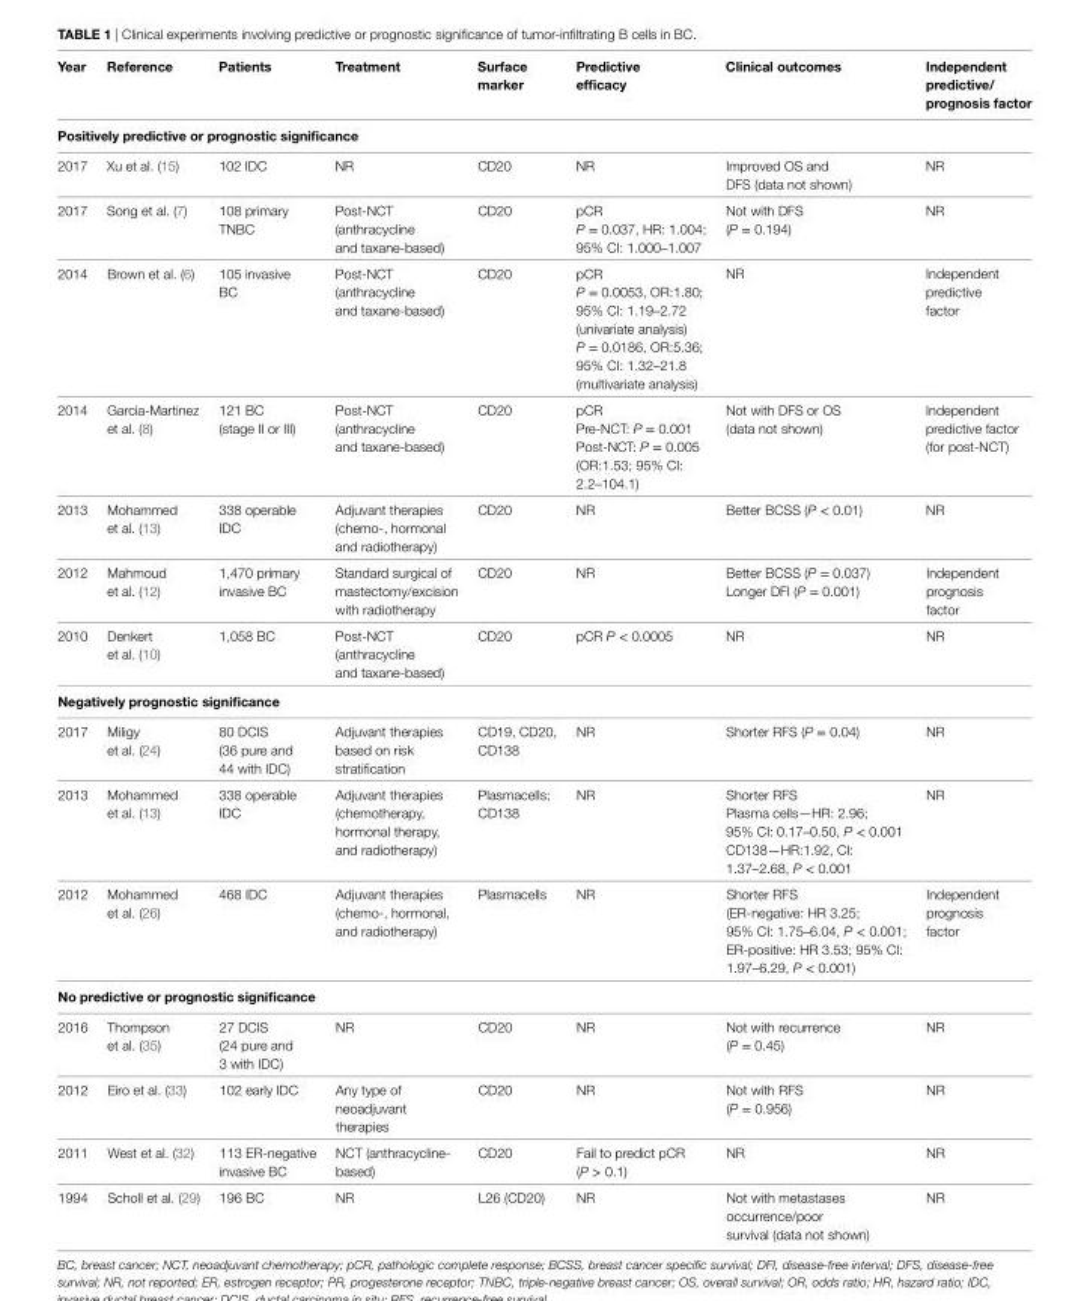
<table><thead><tr><td>Year</td><td>Reference</td><td>Patients</td><td>Treatment</td><td>Surface marker</td><td>Predictive efficacy</td><td>Clinical outcomes</td><td>independent predictive/ prognosis factor</td></tr></thead><tbody><tr><td colspan="8">Positively predictive or prognostic significance</td></tr><tr><td>2017</td><td>Xu et al. (15)</td><td>102 IDC</td><td>NR</td><td>CD20</td><td>NR</td><td>Improved OS and DFS (data not shown)</td><td>NR</td></tr><tr><td>2017</td><td>Song et al. (7)</td><td>108 primary TNBC</td><td>Post-NCT (anthracycline and taxane-based)</td><td>CD20</td><td>pCR P = 0.037, HR: 1.004; 95% CI: 1.000–1.007</td><td>Not with DFS (P = 0.194)</td><td>NR</td></tr><tr><td>2014</td><td>Brown et al. (6)</td><td>105 invasive BC</td><td>Post-NCT (anthracycline and taxane-based)</td><td>CD20</td><td>pCR P = 0.0053, OR:1.80; 95% CI: 1.19–2.72 (univariate analysis) P = 0.0186, OR:5.36; 95% CI: 1.32–21.8 (multivariate analysis)</td><td>NR</td><td>Independent predictive factor</td></tr><tr><td>2014</td><td>Garcia-Martinez et al. (8)</td><td>121 BC (stage II or III)</td><td>Post-NCT (anthracycline and taxane-based)</td><td>CD20</td><td>pCR Pre-NCT: P = 0.001 Post-NCT: P = 0.005 (OR:1.53; 95% CI: 2.2–104.1)</td><td>Not with DFS or OS (data not shown)</td><td>Independent predictive factor (for post-NCT)</td></tr><tr><td>2013</td><td>Mohammed et al. (13)</td><td>338 operable IDC</td><td>Adjuvant therapies (chemo-, hormonal and radiotherapy)</td><td>CD20</td><td>NR</td><td>Better BCSS (P &lt; 0.01)</td><td>NR</td></tr><tr><td>2012</td><td>Mahmoud et al. (12)</td><td>1,470 primary invasive BC</td><td>Standard surgical of mastectomy/excision with radiotherapy</td><td>CD20</td><td>NR</td><td>Better BCSS (P = 0.037) Longer DFI (P = 0.001)</td><td>Independent prognosis factor</td></tr><tr><td>2010</td><td>Denkert et al. (10)</td><td>1,058 BC</td><td>Post-NCT (anthracycline and taxane-based)</td><td>CD20</td><td>pCR P &lt; 0.0005</td><td>NR</td><td>NR</td></tr><tr><td colspan="8">negatively prognostic significance</td></tr><tr><td>2017</td><td>Miligy et al. (24)</td><td>80 DCIS (36 pure and 44 with IDC)</td><td>Adjuvant therapies based on risk stratification</td><td>CD19, CD20, CD138</td><td>NR</td><td>Shorter RFS (P = 0.04)</td><td>NR</td></tr><tr><td>2013</td><td>Mohammed et al. (13)</td><td>338 operable IDC</td><td>Adjuvant therapies (chemotherapy, hormonal therapy, and radiotherapy)</td><td>Plasmacells; CD138</td><td>NR</td><td>Shorter RFS Plasma cells—HR: 2.96; 95% CI: 0.17–0.50, P &lt; 0.001 CD138—HR:1.92, CI: 1.37–2.68, P &lt; 0.001</td><td>NR</td></tr><tr><td>2012</td><td>Mohammed et al. (26)</td><td>468 IDC</td><td>Adjuvant therapies (chemo-, hormonal, and radiotherapy)</td><td>Plasmacells</td><td>NR</td><td>Shorter RFS (ER-negative: HR 3.25; 95% CI: 1.75–6.04, P &lt; 0.001; ER-positive: HR 3.53; 95% CI: 1.97–6.29, P &lt; 0.001)</td><td>Independent prognosis factor</td></tr><tr><td colspan="8">no predictive or prognostic significance</td></tr><tr><td>2016</td><td>Thompson et al. (35)</td><td>27 DCIS (24 pure and 3 with IDC)</td><td>NR</td><td>CD20</td><td>NR</td><td>Not with recurrence (P = 0.45)</td><td>NR</td></tr><tr><td>2012</td><td>Eiro et al. (33)</td><td>102 early IDC</td><td>Any type of neoadjuvant therapies</td><td>CD20</td><td>NR</td><td>Not with RFS (P = 0.956)</td><td>NR</td></tr><tr><td>2011</td><td>West et al. (32)</td><td>113 ER-negative invasive BC</td><td>NCT (anthracycline- based)</td><td>CD20</td><td>Fail to predict pCR (P &gt; 0.1)</td><td>NR</td><td>NR</td></tr><tr><td>1994</td><td>Scholl et al. (29)</td><td>196 BC</td><td>NR</td><td>L26 (CD20)</td><td>NR</td><td>Not with metastases occurrence/poor survival (data not shown)</td><td>NR</td></tr></tbody></table>